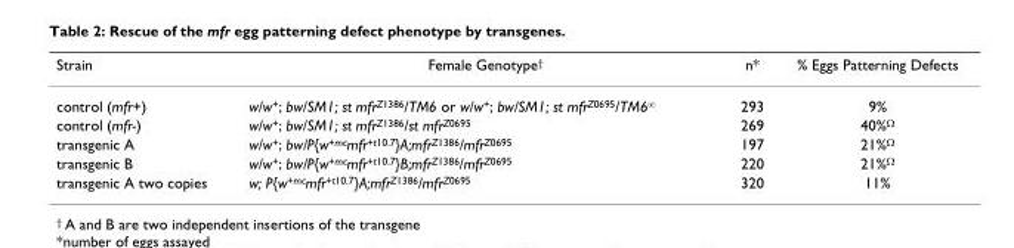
<table><thead><tr><td>Strain</td><td>Female Genotype<sup>†</sup></td><td>n*</td><td>% Eggs Patterning Defects</td></tr></thead><tbody><tr><td>control (mfr+)</td><td>w/w<sup>+</sup>; bw/SM1; st mfr<sup>Z1386</sup>/TM6 or w/w<sup>+</sup>; bw/SM1; st mfr<sup>Z0695</sup>/TM6<sup>∞</sup></td><td>293</td><td>9%</td></tr><tr><td>control (mfr-)</td><td>w/w<sup>+</sup>; bw/SM1; st mfr<sup>Z1386</sup>/st mfr<sup>Z0695</sup></td><td>269</td><td>40%<sup>Ω</sup></td></tr><tr><td>transgenic A</td><td>w/w<sup>+</sup>; bw/P{w<sup>+mc</sup>mfr<sup>+t10.7</sup>}A;mfr<sup>Z1386</sup>/mfr<sup>Z0695</sup></td><td>197</td><td>21%<sup>Ω</sup></td></tr><tr><td>transgenic B</td><td>w/w<sup>+</sup>; bw/P{w<sup>+mc</sup>mfr<sup>+t10.7</sup>}B;mfr<sup>Z1386</sup>/mfr<sup>Z0695</sup></td><td>220</td><td>21%<sup>Ω</sup></td></tr><tr><td>transgenic A two copies</td><td>w; P{w<sup>+mc</sup>mfr<sup>+t10.7</sup>}A;mfr<sup>Z1386</sup>/mfr<sup>Z0695</sup></td><td>320</td><td>11%</td></tr></tbody></table>